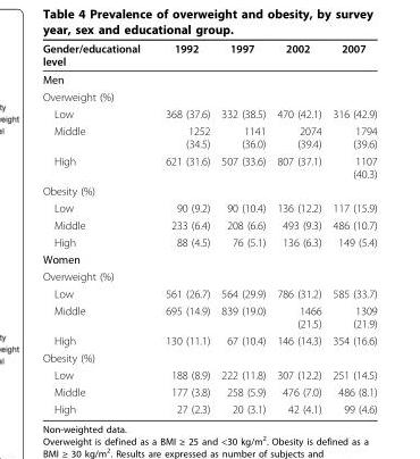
<table><thead><tr><td>Gender/educational level</td><td>1992</td><td>1997</td><td>2002</td><td>2007</td></tr></thead><tbody><tr><td colspan="5">Men</td></tr><tr><td colspan="5">Overweight (%)</td></tr><tr><td>Low</td><td>368 (37.6)</td><td>332 (38.5)</td><td>470 (42.1)</td><td>316 (42.9)</td></tr><tr><td>Middle</td><td>1252 (34.5)</td><td>1141 (36.0)</td><td>2074 (39.4)</td><td>1794 (39.6)</td></tr><tr><td>High</td><td>621 (31.6)</td><td>507 (33.6)</td><td>807 (37.1)</td><td>1107 (40.3)</td></tr><tr><td colspan="5">Obesity (%)</td></tr><tr><td>Low</td><td>90 (9.2)</td><td>90 (10.4)</td><td>136 (12.2)</td><td>117 (15.9)</td></tr><tr><td>Middle</td><td>233 (6.4)</td><td>208 (6.6)</td><td>493 (9.3)</td><td>486 (10.7)</td></tr><tr><td>High</td><td>88 (4.5)</td><td>76 (5.1)</td><td>136 (6.3)</td><td>149 (5.4)</td></tr><tr><td colspan="5">Women</td></tr><tr><td colspan="5">Overweight (%)</td></tr><tr><td>Low</td><td>561 (26.7)</td><td>564 (29.9)</td><td>786 (31.2)</td><td>585 (33.7)</td></tr><tr><td>Middle</td><td>695 (14.9)</td><td>839 (19.0)</td><td>1466 (21.5)</td><td>1309 (21.9)</td></tr><tr><td>High</td><td>130 (11.1)</td><td>67 (10.4)</td><td>146 (14.3)</td><td>354 (16.6)</td></tr><tr><td colspan="5">Obesity (%)</td></tr><tr><td>Low</td><td>188 (8.9)</td><td>222 (11.8)</td><td>307 (12.2)</td><td>251 (14.5)</td></tr><tr><td>Middle</td><td>177 (3.8)</td><td>258 (5.9)</td><td>476 (7.0)</td><td>486 (8.1)</td></tr><tr><td>High</td><td>27 (2.3)</td><td>20 (3.1)</td><td>42 (4.1)</td><td>99 (4.6)</td></tr></tbody></table>